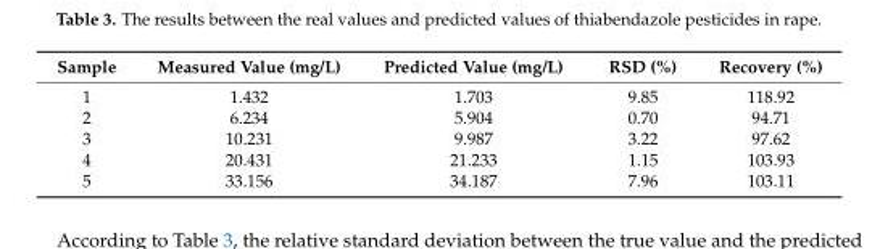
<table><thead><tr><td>Sample</td><td>Measured Value (mg/L)</td><td>Predicted Value (mg/L)</td><td>RSD (%)</td><td>Recovery (%)</td></tr></thead><tbody><tr><td>1</td><td>1.432</td><td>1.703</td><td>9.85</td><td>118.92</td></tr><tr><td>2</td><td>6.234</td><td>5.904</td><td>0.70</td><td>94.71</td></tr><tr><td>3</td><td>10.231</td><td>9.987</td><td>3.22</td><td>97.62</td></tr><tr><td>4</td><td>20.431</td><td>21.233</td><td>1.15</td><td>103.93</td></tr><tr><td>5</td><td>33.156</td><td>34.187</td><td>7.96</td><td>103.11</td></tr></tbody></table>